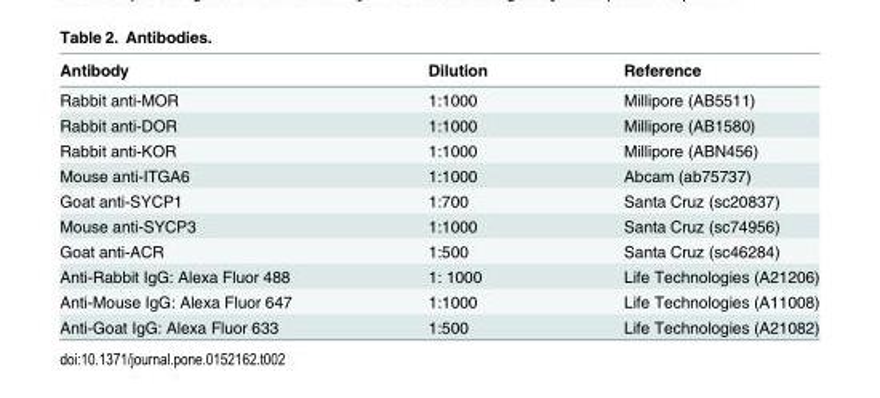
<table><thead><tr><td>Antibody</td><td>Dilution</td><td>Reference</td></tr></thead><tbody><tr><td>Rabbit anti-MOR</td><td>1:1000</td><td>Millipore (AB5511)</td></tr><tr><td>Rabbit anti-DOR</td><td>1:1000</td><td>Millipore (AB1580)</td></tr><tr><td>Rabbit anti-KOR</td><td>1:1000</td><td>Millipore (ABN456)</td></tr><tr><td>Mouse anti-ITGA6</td><td>1:1000</td><td>Abcam (ab75737)</td></tr><tr><td>Goat anti-SYCP1</td><td>1:700</td><td>Santa Cruz (sc20837)</td></tr><tr><td>Mouse anti-SYCP3</td><td>1:1000</td><td>Santa Cruz (sc74956)</td></tr><tr><td>Goat anti-ACR</td><td>1:500</td><td>Santa Cruz (sc46284)</td></tr><tr><td>Anti-Rabbit IgG: Alexa Fluor 488</td><td>1: 1000</td><td>Life Technologies (A21206)</td></tr><tr><td>Anti-Mouse IgG: Alexa Fluor 647</td><td>1:1000</td><td>Life Technologies (A11008)</td></tr><tr><td>Anti-Goat IgG: Alexa Fluor 633</td><td>1:500</td><td>Life Technologies (A21082)</td></tr></tbody></table>